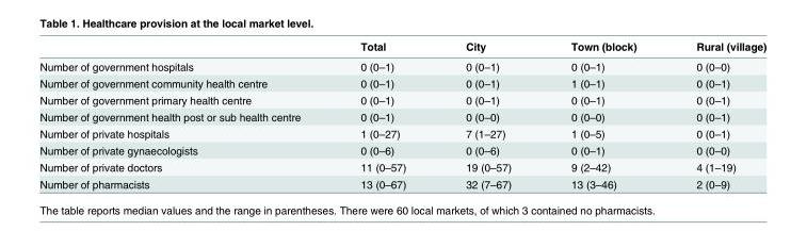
<table><thead><tr><td></td><td>Total</td><td>City</td><td>Town (block)</td><td>Rural (village)</td></tr></thead><tbody><tr><td>Number of government hospitals</td><td>0 (0–1)</td><td>0 (0–1)</td><td>0 (0–1)</td><td>0 (0–0)</td></tr><tr><td>Number of government community health centre</td><td>0 (0–1)</td><td>0 (0–1)</td><td>1 (0–1)</td><td>0 (0–1)</td></tr><tr><td>Number of government primary health centre</td><td>0 (0–1)</td><td>0 (0–1)</td><td>0 (0–1)</td><td>0 (0–1)</td></tr><tr><td>Number of government health post or sub health centre</td><td>0 (0–1)</td><td>0 (0–0)</td><td>0 (0–0)</td><td>0 (0–1)</td></tr><tr><td>Number of private hospitals</td><td>1 (0–27)</td><td>7 (1–27)</td><td>1 (0–5)</td><td>0 (0–1)</td></tr><tr><td>Number of private gynaecologists</td><td>0 (0–6)</td><td>0 (0–6)</td><td>0 (0–1)</td><td>0 (0–0)</td></tr><tr><td>Number of private doctors</td><td>11 (0–57)</td><td>19 (0–57)</td><td>9 (2–42)</td><td>4 (1–19)</td></tr><tr><td>Number of pharmacists</td><td>13 (0–67)</td><td>32 (7–67)</td><td>13 (3–46)</td><td>2 (0–9)</td></tr></tbody></table>